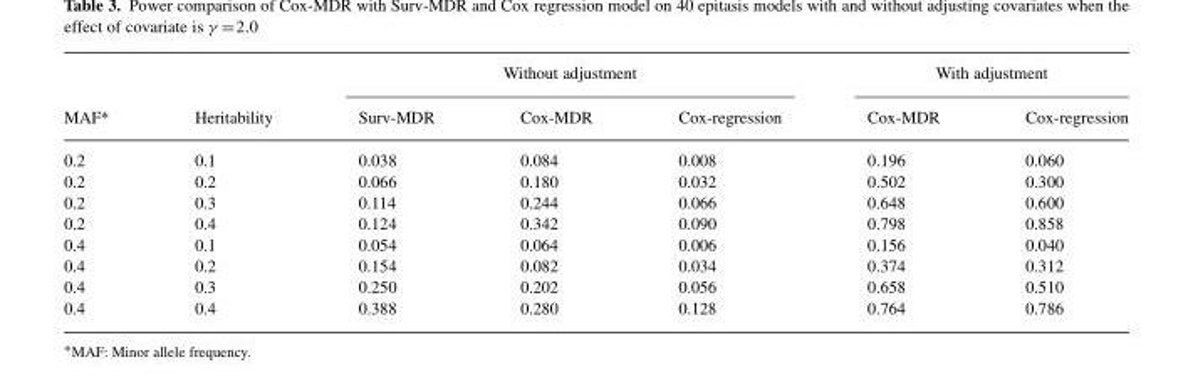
<table><thead><tr><td rowspan="2">MAF*</td><td rowspan="2">Heritability</td><td colspan="3">Without adjustment</td><td colspan="2">With adjustment</td></tr><tr><td>Surv-MDR</td><td>Cox-MDR</td><td>Cox-regression</td><td>Cox-MDR</td><td>Cox-regression</td></tr></thead><tbody><tr><td>0.2</td><td>0.1</td><td>0.038</td><td>0.084</td><td>0.008</td><td>0.196</td><td>0.060</td></tr><tr><td>0.2</td><td>0.2</td><td>0.066</td><td>0.180</td><td>0.032</td><td>0.502</td><td>0.300</td></tr><tr><td>0.2</td><td>0.3</td><td>0.114</td><td>0.244</td><td>0.066</td><td>0.648</td><td>0.600</td></tr><tr><td>0.2</td><td>0.4</td><td>0.124</td><td>0.342</td><td>0.090</td><td>0.798</td><td>0.858</td></tr><tr><td>0.4</td><td>0.1</td><td>0.054</td><td>0.064</td><td>0.006</td><td>0.156</td><td>0.040</td></tr><tr><td>0.4</td><td>0.2</td><td>0.154</td><td>0.082</td><td>0.034</td><td>0.374</td><td>0.312</td></tr><tr><td>0.4</td><td>0.3</td><td>0.250</td><td>0.202</td><td>0.056</td><td>0.658</td><td>0.510</td></tr><tr><td>0.4</td><td>0.4</td><td>0.388</td><td>0.280</td><td>0.128</td><td>0.764</td><td>0.786</td></tr></tbody></table>